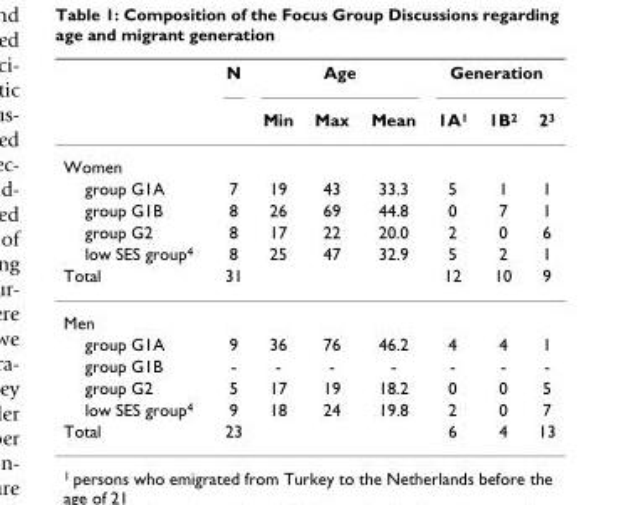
<table><thead><tr><td rowspan="2"></td><td rowspan="2">N</td><td colspan="3">Age</td><td colspan="3">Generation</td></tr><tr><td>Min</td><td>Max</td><td>Mean</td><td>1A<sup>1</sup></td><td>1B<sup>2</sup></td><td>2<sup>3</sup></td></tr></thead><tbody><tr><td colspan="8">Women</td></tr><tr><td>group G1A</td><td>7</td><td>19</td><td>43</td><td>33.3</td><td>5</td><td>1</td><td>1</td></tr><tr><td>group G1B</td><td>8</td><td>26</td><td>69</td><td>44.8</td><td>0</td><td>7</td><td>1</td></tr><tr><td>group G2</td><td>8</td><td>17</td><td>22</td><td>20.0</td><td>2</td><td>0</td><td>6</td></tr><tr><td>low SES group<sup>4</sup></td><td>8</td><td>25</td><td>47</td><td>32.9</td><td>5</td><td>2</td><td>1</td></tr><tr><td>Total</td><td>31</td><td></td><td></td><td></td><td>12</td><td>10</td><td>9</td></tr><tr><td colspan="8">Men</td></tr><tr><td>group G1A</td><td>9</td><td>36</td><td>76</td><td>46.2</td><td>4</td><td>4</td><td>1</td></tr><tr><td>group G1B</td><td>-</td><td>-</td><td>-</td><td>-</td><td>-</td><td>-</td><td>-</td></tr><tr><td>group G2</td><td>5</td><td>17</td><td>19</td><td>18.2</td><td>0</td><td>0</td><td>5</td></tr><tr><td>low SES group<sup>4</sup></td><td>9</td><td>18</td><td>24</td><td>19.8</td><td>2</td><td>0</td><td>7</td></tr><tr><td>Total</td><td>23</td><td></td><td></td><td></td><td>6</td><td>4</td><td>13</td></tr></tbody></table>